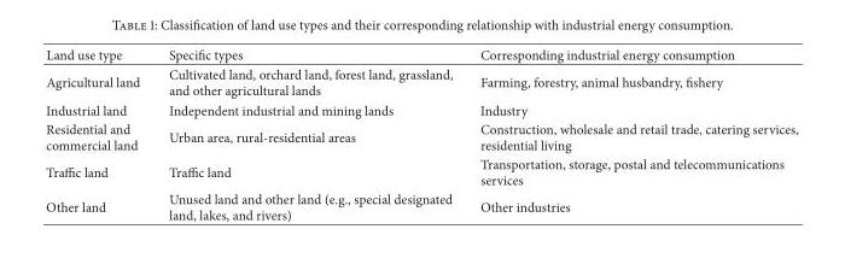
<table><thead><tr><td>Land use type</td><td>Specific types</td><td>Corresponding industrial energy consumption</td></tr></thead><tbody><tr><td>Agricultural land</td><td>Cultivated land, orchard land, forest land, grassland, and other agricultural lands</td><td>Farming, forestry, animal husbandry, fishery</td></tr><tr><td>Industrial land</td><td>Independent industrial and mining lands</td><td>Industry</td></tr><tr><td>Residential and commercial land</td><td>Urban area, rural-residential areas</td><td>Construction, wholesale and retail trade, catering services, residential living</td></tr><tr><td>Traffic land</td><td>Traffic land</td><td>Transportation, storage, postal and telecommunications services</td></tr><tr><td>Other land</td><td>Unused land and other land (e.g., special designated land, lakes, and rivers)</td><td>Other industries</td></tr></tbody></table>